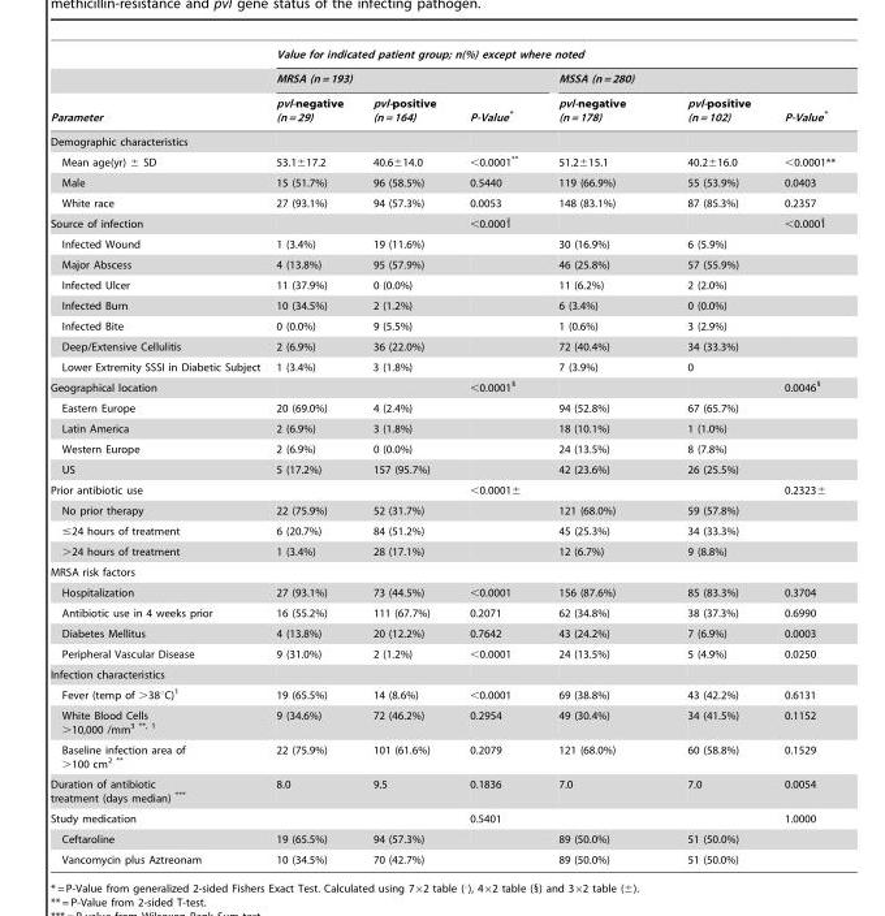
<table><thead><tr><td rowspan="3">Parameter</td><td colspan="6">Value for indicated patient group; n(%) except where noted</td></tr><tr><td colspan="3">MRSA (n = 193)</td><td colspan="3">MSSA (n = 280)</td></tr><tr><td>pvl-negative (n = 29)</td><td>pvl-positive (n = 164)</td><td>P-Value*</td><td>pvl-negative (n = 178)</td><td>pvl-positive (n = 102)</td><td>P-Value*</td></tr></thead><tbody><tr><td colspan="7">Demographic characteristics</td></tr><tr><td>Mean age(yr) ± SD</td><td>53.1±17.2</td><td>40.6±14.0</td><td>&lt;0.0001**</td><td>51.2±15.1</td><td>40.2±16.0</td><td>&lt;0.0001**</td></tr><tr><td>Male</td><td>15 (51.7%)</td><td>96 (58.5%)</td><td>0.5440</td><td>119 (66.9%)</td><td>55 (53.9%)</td><td>0.0403</td></tr><tr><td>White race</td><td>27 (93.1%)</td><td>94 (57.3%)</td><td>0.0053</td><td>148 (83.1%)</td><td>87 (85.3%)</td><td>0.2357</td></tr><tr><td>Source of infection</td><td></td><td></td><td>,0.0001ˆ</td><td></td><td></td><td>,0.0001ˆ</td></tr><tr><td>Infected Wound</td><td>1 (3.4%)</td><td>19 (11.6%)</td><td></td><td>30 (16.9%)</td><td>6 (5.9%)</td><td></td></tr><tr><td>Major Abscess</td><td>4 (13.8%)</td><td>95 (57.9%)</td><td></td><td>46 (25.8%)</td><td>57 (55.9%)</td><td></td></tr><tr><td>Infected Ulcer</td><td>11 (37.9%)</td><td>0 (0.0%)</td><td></td><td>11 (6.2%)</td><td>2 (2.0%)</td><td></td></tr><tr><td>Infected Burn</td><td>10 (34.5%)</td><td>2 (1.2%)</td><td></td><td>6 (3.4%)</td><td>0 (0.0%)</td><td></td></tr><tr><td>Infected Bite</td><td>0 (0.0%)</td><td>9 (5.5%)</td><td></td><td>1 (0.6%)</td><td>3 (2.9%)</td><td></td></tr><tr><td>Deep/Extensive Cellulitis</td><td>2 (6.9%)</td><td>36 (22.0%)</td><td></td><td>72 (40.4%)</td><td>34 (33.3%)</td><td></td></tr><tr><td>Lower Extremity SSSI in Diabetic Subject</td><td>1 (3.4%)</td><td>3 (1.8%)</td><td></td><td>7 (3.9%)</td><td>0</td><td></td></tr><tr><td>Geographical location</td><td></td><td></td><td>&lt;0.0001<sup>§</sup></td><td></td><td></td><td>0.0046<sup>§</sup></td></tr><tr><td>Eastern Europe</td><td>20 (69.0%)</td><td>4 (2.4%)</td><td></td><td>94 (52.8%)</td><td>67 (65.7%)</td><td></td></tr><tr><td>Latin America</td><td>2 (6.9%)</td><td>3 (1.8%)</td><td></td><td>18 (10.1%)</td><td>1 (1.0%)</td><td></td></tr><tr><td>Western Europe</td><td>2 (6.9%)</td><td>0 (0.0%)</td><td></td><td>24 (13.5%)</td><td>8 (7.8%)</td><td></td></tr><tr><td>US</td><td>5 (17.2%)</td><td>157 (95.7%)</td><td></td><td>42 (23.6%)</td><td>26 (25.5%)</td><td></td></tr><tr><td>Prior antibiotic use</td><td></td><td></td><td>&lt;0.0001±</td><td></td><td></td><td>0.2323±</td></tr><tr><td>No prior therapy</td><td>22 (75.9%)</td><td>52 (31.7%)</td><td></td><td>121 (68.0%)</td><td>59 (57.8%)</td><td></td></tr><tr><td>≤24 hours of treatment</td><td>6 (20.7%)</td><td>84 (51.2%)</td><td></td><td>45 (25.3%)</td><td>34 (33.3%)</td><td></td></tr><tr><td>&gt;24 hours of treatment</td><td>1 (3.4%)</td><td>28 (17.1%)</td><td></td><td>12 (6.7%)</td><td>9 (8.8%)</td><td></td></tr><tr><td colspan="7">MRSA risk factors</td></tr><tr><td>Hospitalization</td><td>27 (93.1%)</td><td>73 (44.5%)</td><td>&lt;0.0001</td><td>156 (87.6%)</td><td>85 (83.3%)</td><td>0.3704</td></tr><tr><td>Antibiotic use in 4 weeks prior</td><td>16 (55.2%)</td><td>111 (67.7%)</td><td>0.2071</td><td>62 (34.8%)</td><td>38 (37.3%)</td><td>0.6990</td></tr><tr><td>Diabetes Mellitus</td><td>4 (13.8%)</td><td>20 (12.2%)</td><td>0.7642</td><td>43 (24.2%)</td><td>7 (6.9%)</td><td>0.0003</td></tr><tr><td>Peripheral Vascular Disease</td><td>9 (31.0%)</td><td>2 (1.2%)</td><td>&lt;0.0001</td><td>24 (13.5%)</td><td>5 (4.9%)</td><td>0.0250</td></tr><tr><td colspan="7">Infection characteristics</td></tr><tr><td>Fever (temp of &gt;38°C)<sup>1</sup></td><td>19 (65.5%)</td><td>14 (8.6%)</td><td>&lt;0.0001</td><td>69 (38.8%)</td><td>43 (42.2%)</td><td>0.6131</td></tr><tr><td>White Blood Cells &gt;10,000 /mm<sup>3</sup> **, 1</td><td>9 (34.6%)</td><td>72 (46.2%)</td><td>0.2954</td><td>49 (30.4%)</td><td>34 (41.5%)</td><td>0.1152</td></tr><tr><td>Baseline infection area of &gt;100 cm<sup>2</sup> **</td><td>22 (75.9%)</td><td>101 (61.6%)</td><td>0.2079</td><td>121 (68.0%)</td><td>60 (58.8%)</td><td>0.1529</td></tr><tr><td>Duration of antibiotic treatment (days median) ***</td><td>8.0</td><td>9.5</td><td>0.1836</td><td>7.0</td><td>7.0</td><td>0.0054</td></tr><tr><td>Study medication</td><td></td><td></td><td>0.5401</td><td></td><td></td><td>1.0000</td></tr><tr><td>Ceftaroline</td><td>19 (65.5%)</td><td>94 (57.3%)</td><td></td><td>89 (50.0%)</td><td>51 (50.0%)</td><td></td></tr><tr><td>Vancomycin plus Aztreonam</td><td>10 (34.5%)</td><td>70 (42.7%)</td><td></td><td>89 (50.0%)</td><td>51 (50.0%)</td><td></td></tr></tbody></table>